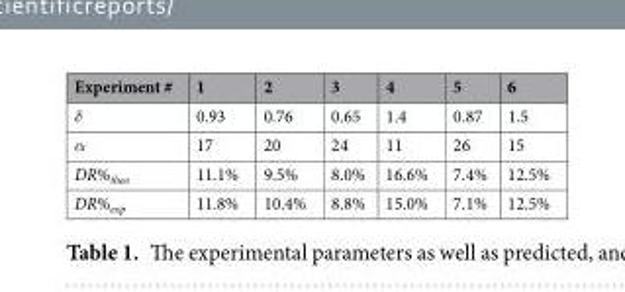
<table><thead><tr><td>Experiment #</td><td>1</td><td>2</td><td>3</td><td>4</td><td>5</td><td>6</td></tr></thead><tbody><tr><td>δ</td><td>0.93</td><td>0.76</td><td>0.65</td><td>1.4</td><td>0.87</td><td>1.5</td></tr><tr><td>α</td><td>17</td><td>20</td><td>24</td><td>11</td><td>26</td><td>15</td></tr><tr><td>DR%<sub>theo</sub></td><td>11.1%</td><td>9.5%</td><td>8.0%</td><td>16.6%</td><td>7.4%</td><td>12.5%</td></tr><tr><td>DR%<sub>exp</sub></td><td>11.8%</td><td>10.4%</td><td>8.8%</td><td>15.0%</td><td>7.1%</td><td>12.5%</td></tr></tbody></table>